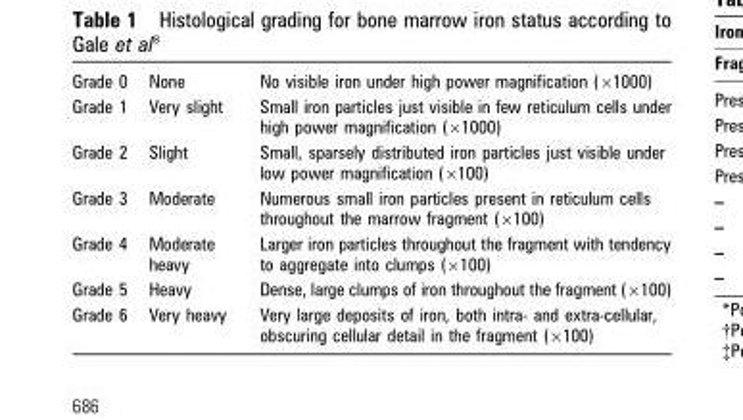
<table><tbody><tr><td>Grade 0</td><td>None</td><td>No visible iron under high power magnification (×1000)</td></tr><tr><td>Grade 1</td><td>Very slight</td><td>Small iron particles just visible in few reticulum cells under high power magnification (×1000)</td></tr><tr><td>Grade 2</td><td>Slight</td><td>Small, sparsely distributed iron particles just visible under low power magnification (×100)</td></tr><tr><td>Grade 3</td><td>Moderate</td><td>Numerous small iron particles present in reticulum cells throughout the marrow fragment (×100)</td></tr><tr><td>Grade 4</td><td>Moderate heavy</td><td>Larger iron particles throughout the fragment with tendency to aggregate into clumps (×100)</td></tr><tr><td>Grade 5</td><td>Heavy</td><td>Dense, large clumps of iron throughout the fragment (×100)</td></tr><tr><td>Grade 6</td><td>Very heavy</td><td>Very large deposits of iron, both intra- and extra-cellular, obscuring cellular detail in the fragment (×100)</td></tr></tbody></table>